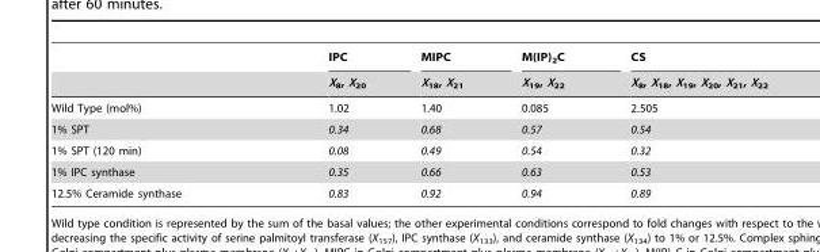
<table><thead><tr><td rowspan="2"></td><td rowspan="2">IPC X<sub>8</sub>, X<sub>20</sub></td><td rowspan="2">MIPC X<sub>18</sub>, X<sub>21</sub></td><td rowspan="2">M(IP)<sub>2</sub>C X<sub>19</sub>, X<sub>22</sub></td><td rowspan="2">CS X<sub>8</sub>, X<sub>18</sub>, X<sub>19</sub>, X<sub>20</sub>, X<sub>21</sub>, X<sub>22</sub></td></tr><tr></tr></thead><tbody><tr><td>Wild Type (mol%)</td><td>1.02</td><td>1.40</td><td>0.085</td><td>2.505</td></tr><tr><td>1% SPT</td><td>0.34</td><td>0.68</td><td>0.57</td><td>0.54</td></tr><tr><td>1% SPT (120 min)</td><td>0.08</td><td>0.49</td><td>0.54</td><td>0.32</td></tr><tr><td>1% IPC synthase</td><td>0.35</td><td>0.66</td><td>0.63</td><td>0.53</td></tr><tr><td>12.5% Ceramide synthase</td><td>0.83</td><td>0.92</td><td>0.94</td><td>0.89</td></tr></tbody></table>